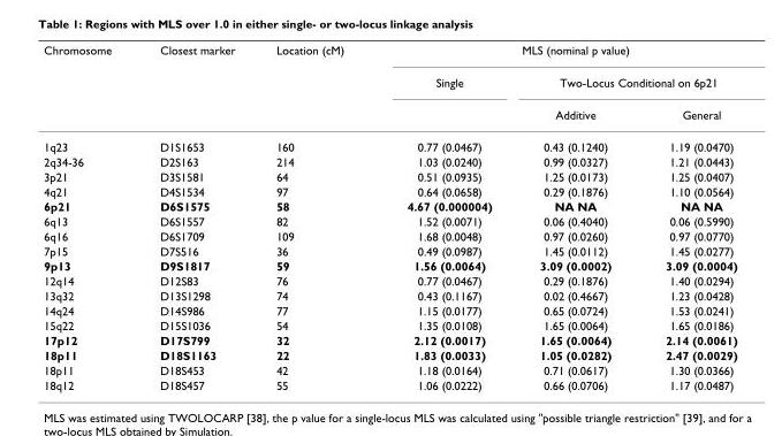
<table><thead><tr><td rowspan="3">Chromosome</td><td rowspan="3">Closest marker</td><td rowspan="3">Location (cM)</td><td colspan="3">MLS (nominal p value)</td></tr><tr><td rowspan="2">Single</td><td colspan="2">Two-Locus Conditional on 6p21</td></tr><tr><td>Additive</td><td>General</td></tr></thead><tbody><tr><td>1q23</td><td>D1S1653</td><td>160</td><td>0.77 (0.0467)</td><td>0.43 (0.1240)</td><td>1.19 (0.0470)</td></tr><tr><td>2q34-36</td><td>D2S163</td><td>214</td><td>1.03 (0.0240)</td><td>0.99 (0.0327)</td><td>1.21 (0.0443)</td></tr><tr><td>3p21</td><td>D3S1581</td><td>64</td><td>0.51 (0.0935)</td><td>1.25 (0.0173)</td><td>1.25 (0.0407)</td></tr><tr><td>4q21</td><td>D4S1534</td><td>97</td><td>0.64 (0.0658)</td><td>0.29 (0.1876)</td><td>1.10 (0.0564)</td></tr><tr><td>6p21</td><td>D6S1575</td><td>58</td><td>4.67 (0.000004)</td><td>NA NA</td><td>NA NA</td></tr><tr><td>6q13</td><td>D6S1557</td><td>82</td><td>1.52 (0.0071)</td><td>0.06 (0.4040)</td><td>0.06 (0.5990)</td></tr><tr><td>6q16</td><td>D6S1709</td><td>109</td><td>1.68 (0.0048)</td><td>0.97 (0.0260)</td><td>0.97 (0.0770)</td></tr><tr><td>7p15</td><td>D7S516</td><td>36</td><td>0.49 (0.0987)</td><td>1.45 (0.0112)</td><td>1.45 (0.0277)</td></tr><tr><td>9p13</td><td>D9S1817</td><td>59</td><td>1.56 (0.0064)</td><td>3.09 (0.0002)</td><td>3.09 (0.0004)</td></tr><tr><td>12q14</td><td>D12S83</td><td>76</td><td>0.77 (0.0467)</td><td>0.29 (0.1876)</td><td>1.40 (0.0294)</td></tr><tr><td>13q32</td><td>D13S1298</td><td>74</td><td>0.43 (0.1167)</td><td>0.02 (0.4667)</td><td>1.23 (0.0428)</td></tr><tr><td>14q24</td><td>D14S986</td><td>77</td><td>1.15 (0.0177)</td><td>0.65 (0.0724)</td><td>1.53 (0.0241)</td></tr><tr><td>15q22</td><td>D15S1036</td><td>54</td><td>1.35 (0.0108)</td><td>1.65 (0.0064)</td><td>1.65 (0.0186)</td></tr><tr><td>17p12</td><td>D17S799</td><td>32</td><td>2.12 (0.0017)</td><td>1.65 (0.0064)</td><td>2.14 (0.0061)</td></tr><tr><td>18p11</td><td>D18S1163</td><td>22</td><td>1.83 (0.0033)</td><td>1.05 (0.0282)</td><td>2.47 (0.0029)</td></tr><tr><td>18p11</td><td>D18S453</td><td>42</td><td>1.18 (0.0164)</td><td>0.71 (0.0617)</td><td>1.30 (0.0366)</td></tr><tr><td>18q12</td><td>D18S457</td><td>55</td><td>1.06 (0.0222)</td><td>0.66 (0.0706)</td><td>1.17 (0.0487)</td></tr></tbody></table>